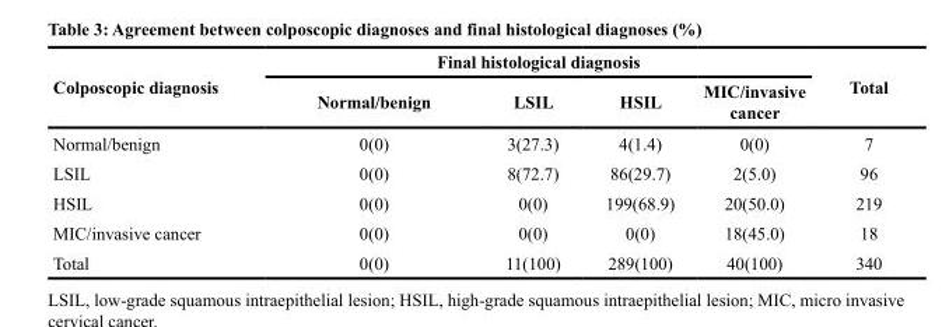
<table><thead><tr><td rowspan="2">Colposcopic diagnosis</td><td colspan="4">Final histological diagnosis</td><td rowspan="2">Total</td></tr><tr><td>Normal/benign</td><td>LSIL</td><td>HSIL</td><td>MIC/invasive cancer</td></tr></thead><tbody><tr><td>Normal/benign</td><td>0(0)</td><td>3(27.3)</td><td>4(1.4)</td><td>0(0)</td><td>7</td></tr><tr><td>LSIL</td><td>0(0)</td><td>8(72.7)</td><td>86(29.7)</td><td>2(5.0)</td><td>96</td></tr><tr><td>HSIL</td><td>0(0)</td><td>0(0)</td><td>199(68.9)</td><td>20(50.0)</td><td>219</td></tr><tr><td>MIC/invasive cancer</td><td>0(0)</td><td>0(0)</td><td>0(0)</td><td>18(45.0)</td><td>18</td></tr><tr><td>Total</td><td>0(0)</td><td>11(100)</td><td>289(100)</td><td>40(100)</td><td>340</td></tr></tbody></table>